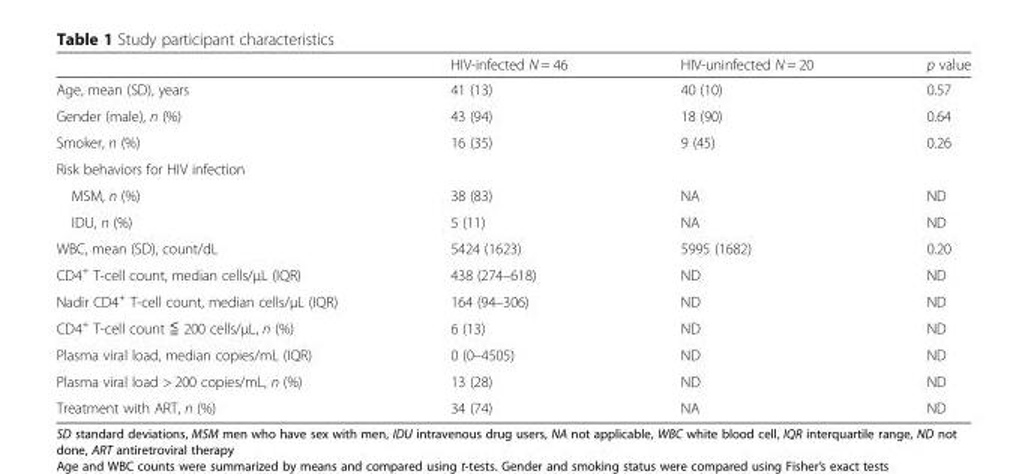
<table><thead><tr><td></td><td>HIV-infected N = 46</td><td>HIV-uninfected N = 20</td><td>p value</td></tr></thead><tbody><tr><td>Age, mean (SD), years</td><td>41 (13)</td><td>40 (10)</td><td>0.57</td></tr><tr><td>Gender (male), n (%)</td><td>43 (94)</td><td>18 (90)</td><td>0.64</td></tr><tr><td>Smoker, n (%)</td><td>16 (35)</td><td>9 (45)</td><td>0.26</td></tr><tr><td colspan="4">Risk behaviors for HIV infection</td></tr><tr><td>MSM, n (%)</td><td>38 (83)</td><td>NA</td><td>ND</td></tr><tr><td>IDU, n (%)</td><td>5 (11)</td><td>NA</td><td>ND</td></tr><tr><td>WBC, mean (SD), count/dL</td><td>5424 (1623)</td><td>5995 (1682)</td><td>0.20</td></tr><tr><td>CD4<sup>+</sup> T-cell count, median cells/μL (IQR)</td><td>438 (274–618)</td><td>ND</td><td>ND</td></tr><tr><td>Nadir CD4<sup>+</sup> T-cell count, median cells/μL (IQR)</td><td>164 (94–306)</td><td>ND</td><td>ND</td></tr><tr><td>CD4<sup>+</sup> T-cell count ≦ 200 cells/μL, n (%)</td><td>6 (13)</td><td>ND</td><td>ND</td></tr><tr><td>Plasma viral load, median copies/mL (IQR)</td><td>0 (0–4505)</td><td>ND</td><td>ND</td></tr><tr><td>Plasma viral load &gt; 200 copies/mL, n (%)</td><td>13 (28)</td><td>ND</td><td>ND</td></tr><tr><td>Treatment with ART, n (%)</td><td>34 (74)</td><td>NA</td><td>ND</td></tr></tbody></table>